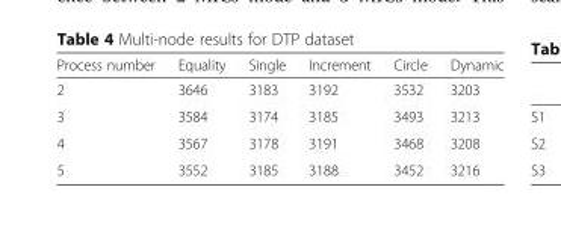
<table><thead><tr><td>Process number</td><td>Equality</td><td>Single</td><td>Increment</td><td>Circle</td><td>Dynamic</td></tr></thead><tbody><tr><td>2</td><td>3646</td><td>3183</td><td>3192</td><td>3532</td><td>3203</td></tr><tr><td>3</td><td>3584</td><td>3174</td><td>3185</td><td>3493</td><td>3213</td></tr><tr><td>4</td><td>3567</td><td>3178</td><td>3191</td><td>3468</td><td>3208</td></tr><tr><td>5</td><td>3552</td><td>3185</td><td>3188</td><td>3452</td><td>3216</td></tr></tbody></table>